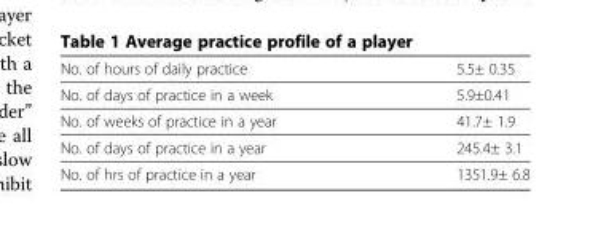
<table><tbody><tr><td>No. of hours of daily practice</td><td>5.5± 0.35</td></tr><tr><td>No. of days of practice in a week</td><td>5.9±0.41</td></tr><tr><td>No. of weeks of practice in a year</td><td>41.7± 1.9</td></tr><tr><td>No. of days of practice in a year</td><td>245.4± 3.1</td></tr><tr><td>No. of hrs of practice in a year</td><td>1351.9± 6.8</td></tr></tbody></table>